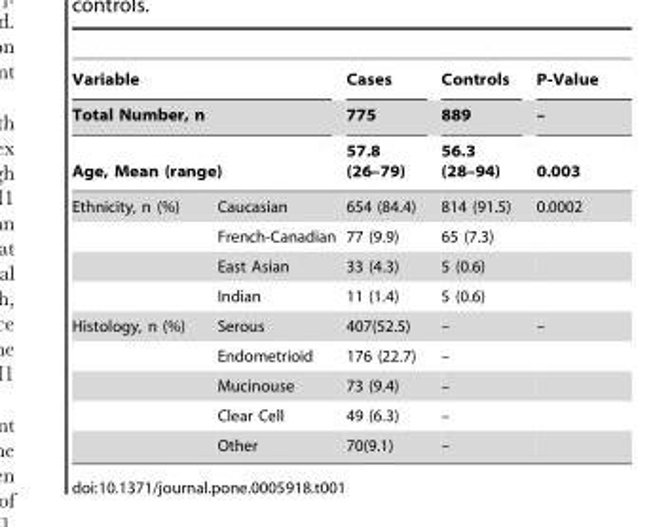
<table><thead><tr><td rowspan="3" colspan="2">Variable Total Number, n Age, Mean (range)</td><td rowspan="4">Cases 775 57.8 (26–79) 654 (84.4)</td><td rowspan="4">Controls 889 56.3 (28–94) 814 (91.5)</td><td rowspan="4">P-Value – 0.003 0.0002</td></tr><tr></tr><tr></tr><tr><td>Ethnicity, n (%)</td><td>Caucasian</td></tr></thead><tbody><tr><td></td><td>French-Canadian</td><td>77 (9.9)</td><td>65 (7.3)</td><td></td></tr><tr><td></td><td>East Asian</td><td>33 (4.3)</td><td>5 (0.6)</td><td></td></tr><tr><td></td><td>Indian</td><td>11 (1.4)</td><td>5 (0.6)</td><td></td></tr><tr><td rowspan="5">Histology, n (%)</td><td>Serous</td><td>407(52.5)</td><td>–</td><td>–</td></tr><tr><td>Endometrioid</td><td>176 (22.7)</td><td>–</td><td></td></tr><tr><td>Mucinouse</td><td>73 (9.4)</td><td>–</td><td></td></tr><tr><td>Clear Cell</td><td>49 (6.3)</td><td>–</td><td></td></tr><tr><td>Other</td><td>70(9.1)</td><td>–</td><td></td></tr></tbody></table>